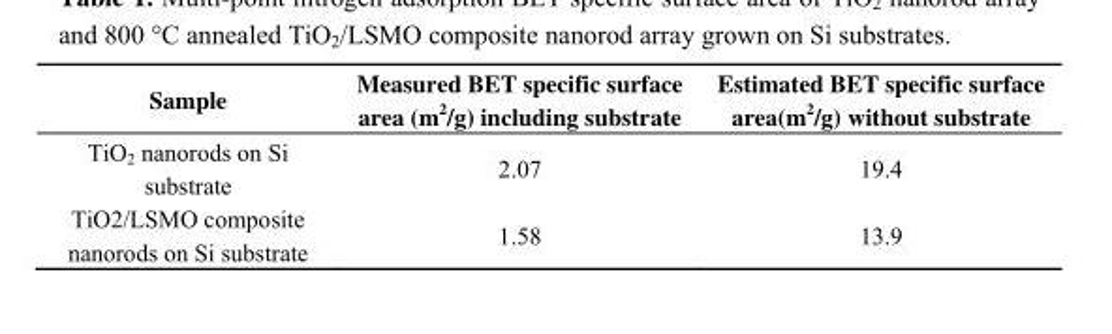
<table><thead><tr><td>Sample</td><td>Measured BET specific surface area (m<sup>2</sup>/g) including substrate</td><td>Estimated BET specific surface area(m<sup>2</sup>/g) without substrate</td></tr></thead><tbody><tr><td>TiO<sub>2</sub> nanorods on Si substrate</td><td>2.07</td><td>19.4</td></tr><tr><td>TiO2/LSMO composite nanorods on Si substrate</td><td>1.58</td><td>13.9</td></tr></tbody></table>